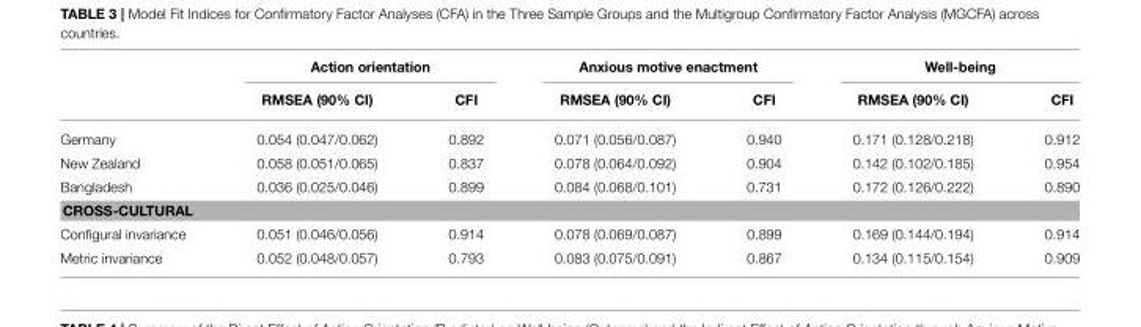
<table><thead><tr><td rowspan="2"></td><td colspan="2">Action orientation</td><td colspan="2">Anxious motive enactment</td><td colspan="2">Well-being</td></tr><tr><td>RMSEA (90% CI)</td><td>CFI</td><td>RMSEA (90% CI)</td><td>CFI</td><td>RMSEA (90% CI)</td><td>CFI</td></tr></thead><tbody><tr><td>Germany</td><td>0.054 (0.047/0.062)</td><td>0.892</td><td>0.071 (0.056/0.087)</td><td>0.940</td><td>0.171 (0.128/0.218)</td><td>0.912</td></tr><tr><td>New Zealand</td><td>0.058 (0.051/0.065)</td><td>0.837</td><td>0.078 (0.064/0.092)</td><td>0.904</td><td>0.142 (0.102/0.185)</td><td>0.954</td></tr><tr><td>Bangladesh</td><td>0.036 (0.025/0.046)</td><td>0.899</td><td>0.084 (0.068/0.101)</td><td>0.731</td><td>0.172 (0.126/0.222)</td><td>0.890</td></tr><tr><td colspan="7">CROSS-CULTURAL</td></tr><tr><td>Configural invariance</td><td>0.051 (0.046/0.056)</td><td>0.914</td><td>0.078 (0.069/0.087)</td><td>0.899</td><td>0.169 (0.144/0.194)</td><td>0.914</td></tr><tr><td>Metric invariance</td><td>0.052 (0.048/0.057)</td><td>0.793</td><td>0.083 (0.075/0.091)</td><td>0.867</td><td>0.134 (0.115/0.154)</td><td>0.909</td></tr></tbody></table>